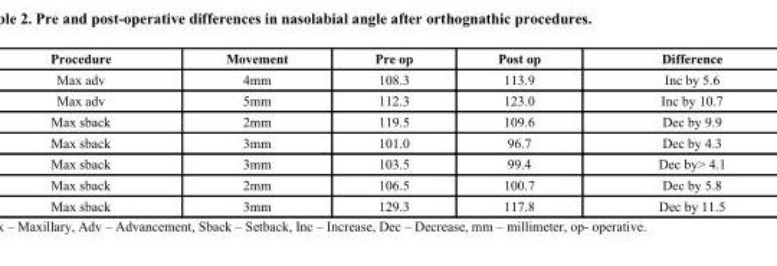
<table><thead><tr><td>Procedure</td><td>Movement</td><td>Pre op</td><td>Post op</td><td>Difference</td></tr></thead><tbody><tr><td>Max adv</td><td>4mm</td><td>108.3</td><td>113.9</td><td>Inc by 5.6</td></tr><tr><td>Max adv</td><td>5mm</td><td>112.3</td><td>123.0</td><td>Inc by 10.7</td></tr><tr><td>Max sback</td><td>2mm</td><td>119.5</td><td>109.6</td><td>Dec by 9.9</td></tr><tr><td>Max sback</td><td>3mm</td><td>101.0</td><td>96.7</td><td>Dec by 4.3</td></tr><tr><td>Max sback</td><td>3mm</td><td>103.5</td><td>99.4</td><td>Dec by&gt; 4.1</td></tr><tr><td>Max sback</td><td>2mm</td><td>106.5</td><td>100.7</td><td>Dec by 5.8</td></tr><tr><td>Max sback</td><td>3mm</td><td>129.3</td><td>117.8</td><td>Dec by 11.5</td></tr></tbody></table>